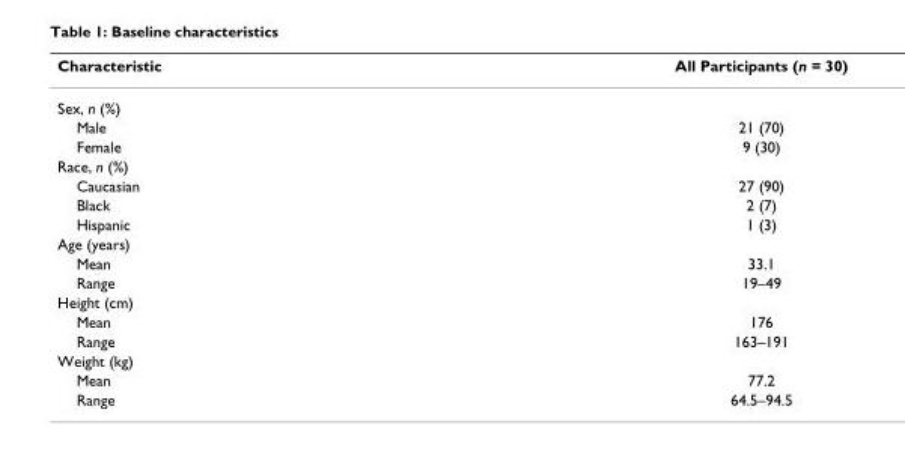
<table><thead><tr><td>Characteristic</td><td>All Participants (n = 30)</td></tr></thead><tbody><tr><td colspan="2">Sex, n (%)</td></tr><tr><td>Male</td><td>21 (70)</td></tr><tr><td>Female</td><td>9 (30)</td></tr><tr><td colspan="2">Race, n (%)</td></tr><tr><td>Caucasian</td><td>27 (90)</td></tr><tr><td>Black</td><td>2 (7)</td></tr><tr><td>Hispanic</td><td>1 (3)</td></tr><tr><td colspan="2">Age (years)</td></tr><tr><td>Mean</td><td>33.1</td></tr><tr><td>Range</td><td>19–49</td></tr><tr><td colspan="2">Height (cm)</td></tr><tr><td>Mean</td><td>176</td></tr><tr><td>Range</td><td>163–191</td></tr><tr><td colspan="2">Weight (kg)</td></tr><tr><td>Mean</td><td>77.2</td></tr><tr><td>Range</td><td>64.5–94.5</td></tr></tbody></table>